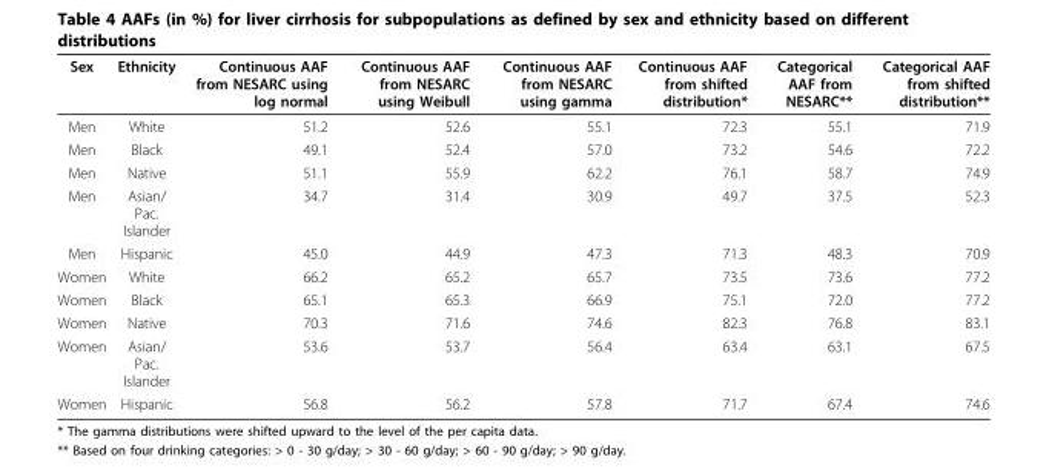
<table><thead><tr><td>Sex</td><td>Ethnicity</td><td>Continuous AAF from NESARC using log normal</td><td>Continuous AAF from NESARC using Weibull</td><td>Continuous AAF from NESARC using gamma</td><td>Continuous AAF from shifted distribution*</td><td>Categorical AAF from NESARC**</td><td>Categorical AAF from shifted distribution**</td></tr></thead><tbody><tr><td>Men</td><td>White</td><td>51.2</td><td>52.6</td><td>55.1</td><td>72.3</td><td>55.1</td><td>71.9</td></tr><tr><td>Men</td><td>Black</td><td>49.1</td><td>52.4</td><td>57.0</td><td>73.2</td><td>54.6</td><td>72.2</td></tr><tr><td>Men</td><td>Native</td><td>51.1</td><td>55.9</td><td>62.2</td><td>76.1</td><td>58.7</td><td>74.9</td></tr><tr><td>Men</td><td>Asian/ Pac. Islander</td><td>34.7</td><td>31.4</td><td>30.9</td><td>49.7</td><td>37.5</td><td>52.3</td></tr><tr><td>Men</td><td>Hispanic</td><td>45.0</td><td>44.9</td><td>47.3</td><td>71.3</td><td>48.3</td><td>70.9</td></tr><tr><td>Women</td><td>White</td><td>66.2</td><td>65.2</td><td>65.7</td><td>73.5</td><td>73.6</td><td>77.2</td></tr><tr><td>Women</td><td>Black</td><td>65.1</td><td>65.3</td><td>66.9</td><td>75.1</td><td>72.0</td><td>77.2</td></tr><tr><td>Women</td><td>Native</td><td>70.3</td><td>71.6</td><td>74.6</td><td>82.3</td><td>76.8</td><td>83.1</td></tr><tr><td>Women</td><td>Asian/ Pac. Islander</td><td>53.6</td><td>53.7</td><td>56.4</td><td>63.4</td><td>63.1</td><td>67.5</td></tr><tr><td>Women</td><td>Hispanic</td><td>56.8</td><td>56.2</td><td>57.8</td><td>71.7</td><td>67.4</td><td>74.6</td></tr></tbody></table>